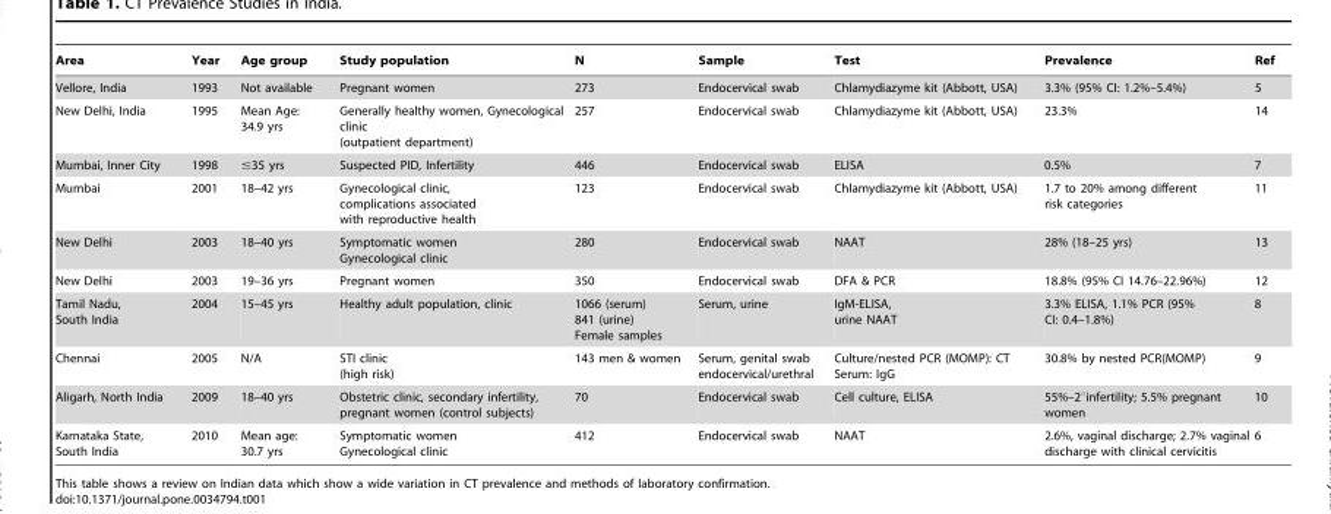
<table><thead><tr><td>Area</td><td>Year</td><td>Age group</td><td>Study population</td><td>N</td><td>Sample</td><td>Test</td><td>Prevalence</td><td>Ref</td></tr></thead><tbody><tr><td>Vellore, India</td><td>1993</td><td>Not available</td><td>Pregnant women</td><td>273</td><td>Endocervical swab</td><td>Chlamydiazyme kit (Abbott, USA)</td><td>3.3% (95% CI: 1.2%–5.4%)</td><td>5</td></tr><tr><td>New Delhi, India</td><td>1995</td><td>Mean Age: 34.9 yrs</td><td>Generally healthy women, Gynecological clinic (outpatient department)</td><td>257</td><td>Endocervical swab</td><td>Chlamydiazyme kit (Abbott, USA)</td><td>23.3%</td><td>14</td></tr><tr><td>Mumbai, Inner City</td><td>1998</td><td>≤35 yrs</td><td>Suspected PID, Infertility</td><td>446</td><td>Endocervical swab</td><td>ELISA</td><td>0.5%</td><td>7</td></tr><tr><td>Mumbai</td><td>2001</td><td>18–42 yrs</td><td>Gynecological clinic, complications associated with reproductive health</td><td>123</td><td>Endocervical swab</td><td>Chlamydiazyme kit (Abbott, USA)</td><td>1.7 to 20% among different risk categories</td><td>11</td></tr><tr><td>New Delhi</td><td>2003</td><td>18–40 yrs</td><td>Symptomatic women Gynecological clinic</td><td>280</td><td>Endocervical swab</td><td>NAAT</td><td>28% (18–25 yrs)</td><td>13</td></tr><tr><td>New Delhi</td><td>2003</td><td>19–36 yrs</td><td>Pregnant women</td><td>350</td><td>Endocervical swab</td><td>DFA &amp; PCR</td><td>18.8% (95% CI 14.76–22.96%)</td><td>12</td></tr><tr><td>Tamil Nadu, South India</td><td>2004</td><td>15–45 yrs</td><td>Healthy adult population, clinic</td><td>1066 (serum) 841 (urine) Female samples</td><td>Serum, urine</td><td>IgM-ELISA, urine NAAT</td><td>3.3% ELISA, 1.1% PCR (95% CI: 0.4–1.8%)</td><td>8</td></tr><tr><td>Chennai</td><td>2005</td><td>N/A</td><td>STI clinic (high risk)</td><td>143 men &amp; women</td><td>Serum, genital swab endocervical/urethral</td><td>Culture/nested PCR (MOMP): CT Serum: IgG</td><td>30.8% by nested PCR(MOMP)</td><td>9</td></tr><tr><td>Aligarh, North India</td><td>2009</td><td>18–40 yrs</td><td>Obstetric clinic, secondary infertility, pregnant women (control subjects)</td><td>70</td><td>Endocervical swab</td><td>Cell culture, ELISA</td><td>55%–2°infertility; 5.5% pregnant women</td><td>10</td></tr><tr><td>Karnataka State, South India</td><td>2010</td><td>Mean age: 30.7 yrs</td><td>Symptomatic women Gynecological clinic</td><td>412</td><td>Endocervical swab</td><td>NAAT</td><td>2.6%, vaginal discharge; 2.7% vaginal discharge with clinical cervicitis</td><td>6</td></tr></tbody></table>